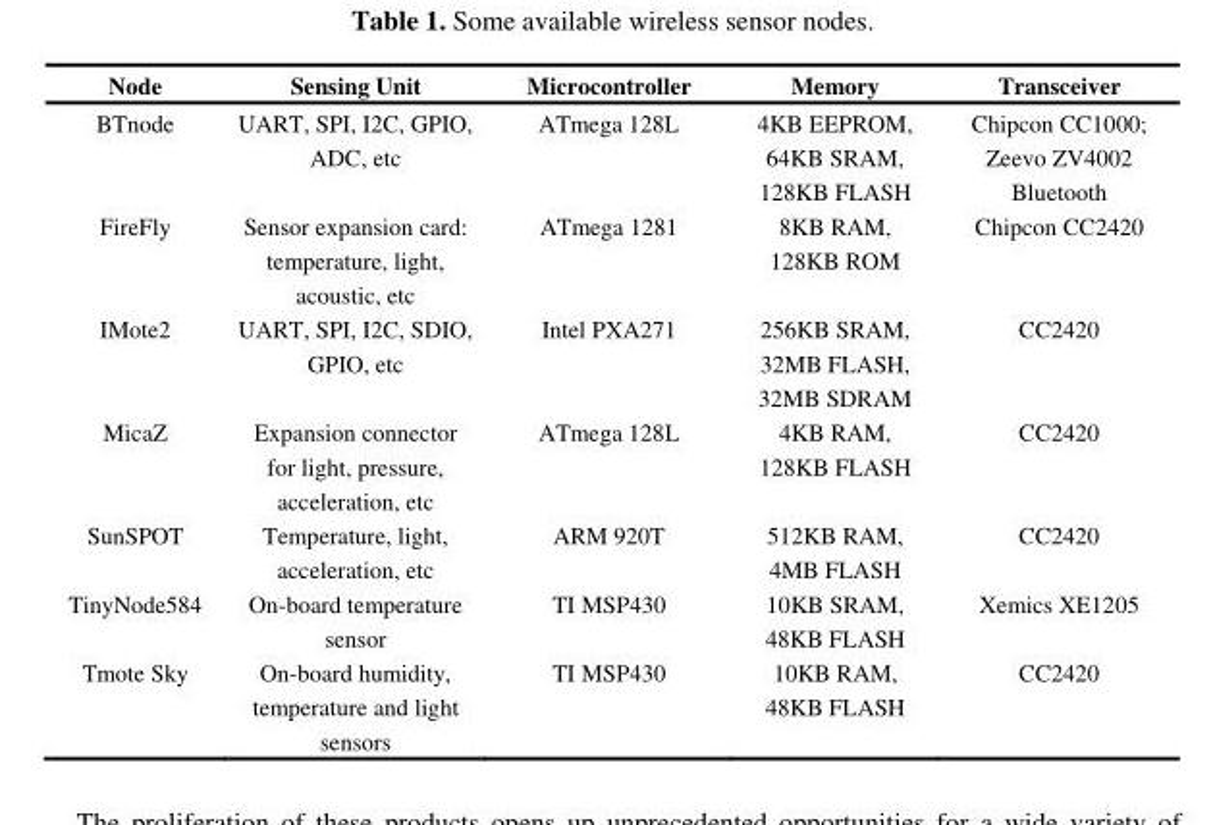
<table><thead><tr><td>Node</td><td>Sensing Unit</td><td>Microcontroller</td><td>Memory</td><td>Transceiver</td></tr></thead><tbody><tr><td>BTnode</td><td>UART, SPI, I2C, GPIO, ADC, etc</td><td>ATmega 128L</td><td>4KB EEPROM, 64KB SRAM, 128KB FLASH</td><td>Chipcon CC1000; Zeevo ZV4002 Bluetooth</td></tr><tr><td>FireFly</td><td>Sensor expansion card: temperature, light, acoustic, etc</td><td>ATmega 1281</td><td>8KB RAM, 128KB ROM</td><td>Chipcon CC2420</td></tr><tr><td>IMote2</td><td>UART, SPI, I2C, SDIO, GPIO, etc</td><td>Intel PXA271</td><td>256KB SRAM, 32MB FLASH, 32MB SDRAM</td><td>CC2420</td></tr><tr><td>MicaZ</td><td>Expansion connector for light, pressure, acceleration, etc</td><td>ATmega 128L</td><td>4KB RAM, 128KB FLASH</td><td>CC2420</td></tr><tr><td>SunSPOT</td><td>Temperature, light, acceleration, etc</td><td>ARM 920T</td><td>512KB RAM, 4MB FLASH</td><td>CC2420</td></tr><tr><td>TinyNode584</td><td>On-board temperature sensor</td><td>TI MSP430</td><td>10KB SRAM, 48KB FLASH</td><td>Xemics XE1205</td></tr><tr><td>Tmote Sky</td><td>On-board humidity, temperature and light sensors</td><td>TI MSP430</td><td>10KB RAM, 48KB FLASH</td><td>CC2420</td></tr></tbody></table>